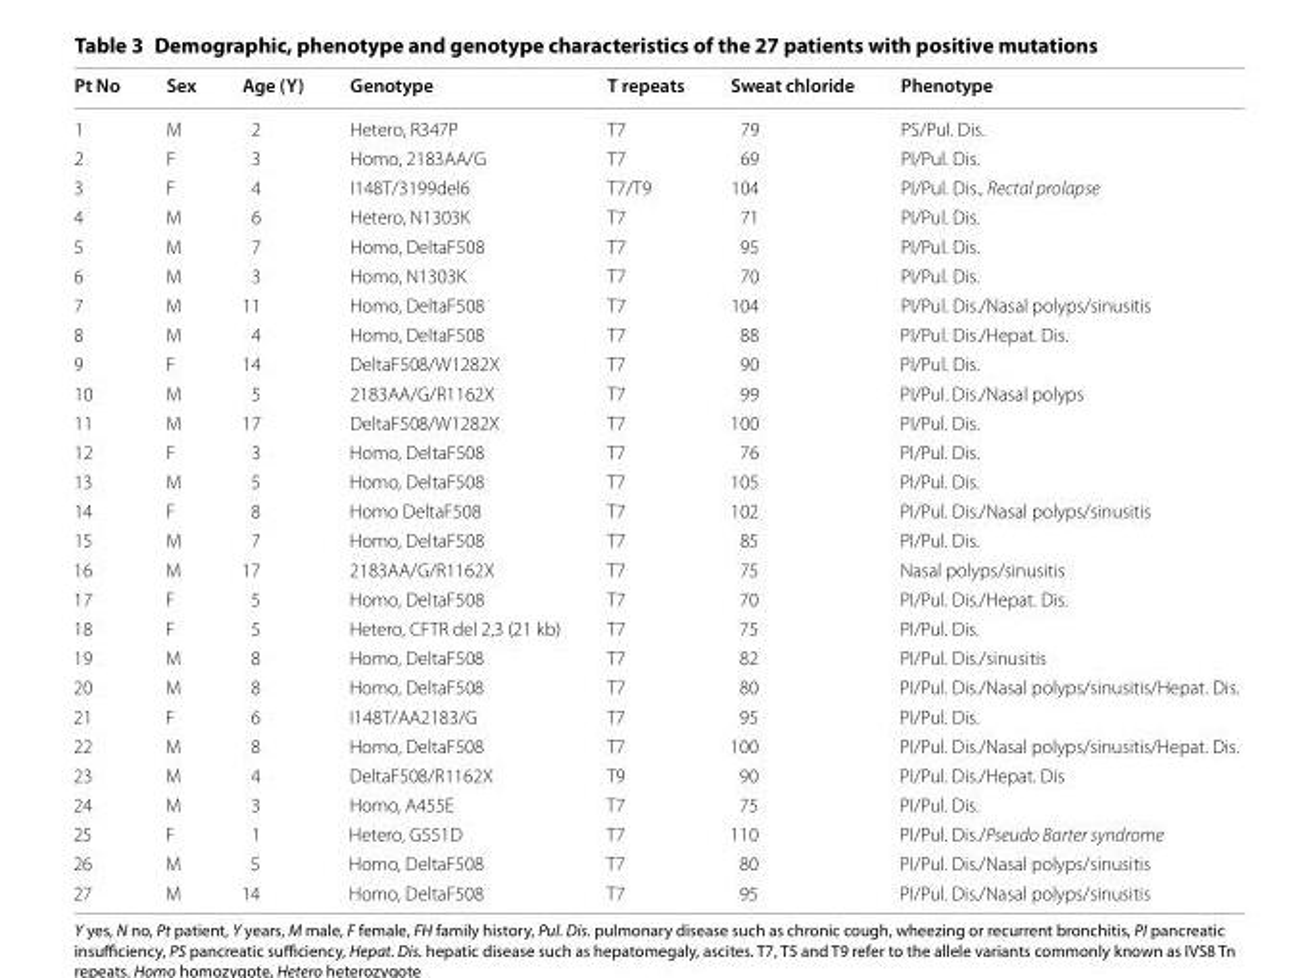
<table><thead><tr><td>Pt No</td><td>Sex</td><td>Age (Y)</td><td>Genotype</td><td>T repeats</td><td>Sweat chloride</td><td>Phenotype</td></tr></thead><tbody><tr><td>1</td><td>M</td><td>2</td><td>Hetero, R347P</td><td>T7</td><td>79</td><td>PS/Pul. Dis.</td></tr><tr><td>2</td><td>F</td><td>3</td><td>Homo, 2183AA/G</td><td>T7</td><td>69</td><td>PI/Pul. Dis.</td></tr><tr><td>3</td><td>F</td><td>4</td><td>I148T/3199del6</td><td>T7/T9</td><td>104</td><td>PI/Pul. Dis., Rectal prolapse</td></tr><tr><td>4</td><td>M</td><td>6</td><td>Hetero, N1303K</td><td>T7</td><td>71</td><td>PI/Pul. Dis.</td></tr><tr><td>5</td><td>M</td><td>7</td><td>Homo, DeltaF508</td><td>T7</td><td>95</td><td>PI/Pul. Dis.</td></tr><tr><td>6</td><td>M</td><td>3</td><td>Homo, N1303K</td><td>T7</td><td>70</td><td>PI/Pul. Dis.</td></tr><tr><td>7</td><td>M</td><td>11</td><td>Homo, DeltaF508</td><td>T7</td><td>104</td><td>PI/Pul. Dis./Nasal polyps/sinusitis</td></tr><tr><td>8</td><td>M</td><td>4</td><td>Homo, DeltaF508</td><td>T7</td><td>88</td><td>PI/Pul. Dis./Hepat. Dis.</td></tr><tr><td>9</td><td>F</td><td>14</td><td>DeltaF508/W1282X</td><td>T7</td><td>90</td><td>PI/Pul. Dis.</td></tr><tr><td>10</td><td>M</td><td>5</td><td>2183AA/G/R1162X</td><td>T7</td><td>99</td><td>PI/Pul. Dis./Nasal polyps</td></tr><tr><td>11</td><td>M</td><td>17</td><td>DeltaF508/W1282X</td><td>T7</td><td>100</td><td>PI/Pul. Dis.</td></tr><tr><td>12</td><td>F</td><td>3</td><td>Homo, DeltaF508</td><td>T7</td><td>76</td><td>PI/Pul. Dis.</td></tr><tr><td>13</td><td>M</td><td>5</td><td>Homo, DeltaF508</td><td>T7</td><td>105</td><td>PI/Pul. Dis.</td></tr><tr><td>14</td><td>F</td><td>8</td><td>Homo DeltaF508</td><td>T7</td><td>102</td><td>PI/Pul. Dis./Nasal polyps/sinusitis</td></tr><tr><td>15</td><td>M</td><td>7</td><td>Homo, DeltaF508</td><td>T7</td><td>85</td><td>PI/Pul. Dis.</td></tr><tr><td>16</td><td>M</td><td>17</td><td>2183AA/G/R1162X</td><td>T7</td><td>75</td><td>Nasal polyps/sinusitis</td></tr><tr><td>17</td><td>F</td><td>5</td><td>Homo, DeltaF508</td><td>T7</td><td>70</td><td>PI/Pul. Dis./Hepat. Dis.</td></tr><tr><td>18</td><td>F</td><td>5</td><td>Hetero, CFTR del 2,3 (21 kb)</td><td>T7</td><td>75</td><td>PI/Pul. Dis.</td></tr><tr><td>19</td><td>M</td><td>8</td><td>Homo, DeltaF508</td><td>T7</td><td>82</td><td>PI/Pul. Dis./sinusitis</td></tr><tr><td>20</td><td>M</td><td>8</td><td>Homo, DeltaF508</td><td>T7</td><td>80</td><td>PI/Pul. Dis./Nasal polyps/sinusitis/Hepat. Dis.</td></tr><tr><td>21</td><td>F</td><td>6</td><td>I148T/AA2183/G</td><td>T7</td><td>95</td><td>PI/Pul. Dis.</td></tr><tr><td>22</td><td>M</td><td>8</td><td>Homo, DeltaF508</td><td>T7</td><td>100</td><td>PI/Pul. Dis./Nasal polyps/sinusitis/Hepat. Dis.</td></tr><tr><td>23</td><td>M</td><td>4</td><td>DeltaF508/R1162X</td><td>T9</td><td>90</td><td>PI/Pul. Dis./Hepat. Dis</td></tr><tr><td>24</td><td>M</td><td>3</td><td>Homo, A455E</td><td>T7</td><td>75</td><td>PI/Pul. Dis.</td></tr><tr><td>25</td><td>F</td><td>1</td><td>Hetero, G551D</td><td>T7</td><td>110</td><td>PI/Pul. Dis./Pseudo Barter syndrome</td></tr><tr><td>26</td><td>M</td><td>5</td><td>Homo, DeltaF508</td><td>T7</td><td>80</td><td>PI/Pul. Dis./Nasal polyps/sinusitis</td></tr><tr><td>27</td><td>M</td><td>14</td><td>Homo, DeltaF508</td><td>T7</td><td>95</td><td>PI/Pul. Dis./Nasal polyps/sinusitis</td></tr></tbody></table>